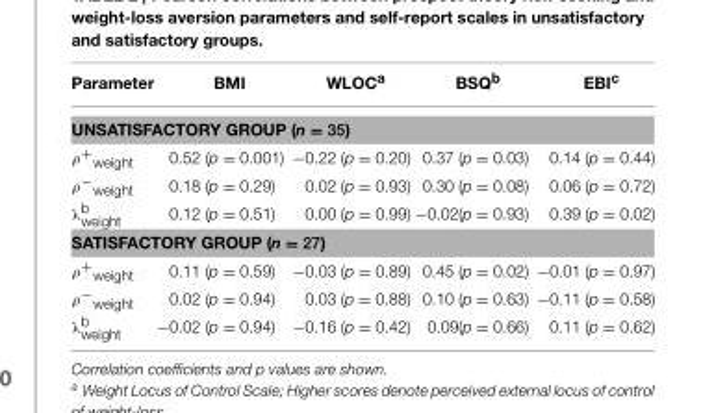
<table><thead><tr><td>Parameter</td><td>BMI</td><td>WLOC<sup>a</sup></td><td>BSQ<sup>b</sup></td><td>EBI<sup>c</sup></td></tr></thead><tbody><tr><td colspan="5">UNSATISFACTORY GROUP (n = 35)</td></tr><tr><td>ρ<sup>+</sup><sub>weight</sub></td><td>0.52 (p = 0.001)</td><td>−0.22 (p = 0.20)</td><td>0.37 (p = 0.03)</td><td>0.14 (p = 0.44)</td></tr><tr><td>ρ<sup>−</sup><sub>weight</sub></td><td>0.18 (p = 0.29)</td><td>0.02 (p = 0.93)</td><td>0.30 (p = 0.08)</td><td>0.06 (p = 0.72)</td></tr><tr><td>λb weight</td><td>0.12 (p = 0.51)</td><td>0.00 (p = 0.99)</td><td>−0.02(p = 0.93)</td><td>0.39 (p = 0.02)</td></tr><tr><td colspan="5">SATISFACTORY GROUP (n = 27)</td></tr><tr><td>ρ<sup>+</sup><sub>weight</sub></td><td>0.11 (p = 0.59)</td><td>−0.03 (p = 0.89)</td><td>0.45 (p = 0.02)</td><td>−0.01 (p = 0.97)</td></tr><tr><td>ρ<sup>−</sup><sub>weight</sub></td><td>0.02 (p = 0.94)</td><td>0.03 (p = 0.88)</td><td>0.10 (p = 0.63)</td><td>−0.11 (p = 0.58)</td></tr><tr><td>λb weight</td><td>−0.02 (p = 0.94)</td><td>−0.16 (p = 0.42)</td><td>0.09(p = 0.66)</td><td>0.11 (p = 0.62)</td></tr></tbody></table>